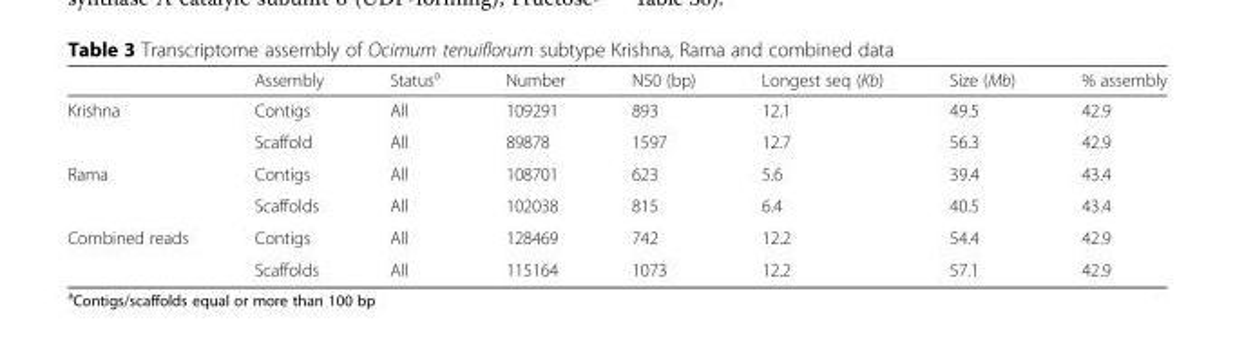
<table><thead><tr><td></td><td>Assembly</td><td>Status<sup>a</sup></td><td>Number</td><td>N50 (bp)</td><td>Longest seq (Kb)</td><td>Size (Mb)</td><td>% assembly</td></tr></thead><tbody><tr><td rowspan="2">Krishna</td><td>Contigs</td><td>All</td><td>109291</td><td>893</td><td>12.1</td><td>49.5</td><td>42.9</td></tr><tr><td>Scaffold</td><td>All</td><td>89878</td><td>1597</td><td>12.7</td><td>56.3</td><td>42.9</td></tr><tr><td rowspan="2">Rama</td><td>Contigs</td><td>All</td><td>108701</td><td>623</td><td>5.6</td><td>39.4</td><td>43.4</td></tr><tr><td>Scaffolds</td><td>All</td><td>102038</td><td>815</td><td>6.4</td><td>40.5</td><td>43.4</td></tr><tr><td rowspan="2">Combined reads</td><td>Contigs</td><td>All</td><td>128469</td><td>742</td><td>12.2</td><td>54.4</td><td>42.9</td></tr><tr><td>Scaffolds</td><td>All</td><td>115164</td><td>1073</td><td>12.2</td><td>57.1</td><td>42.9</td></tr></tbody></table>